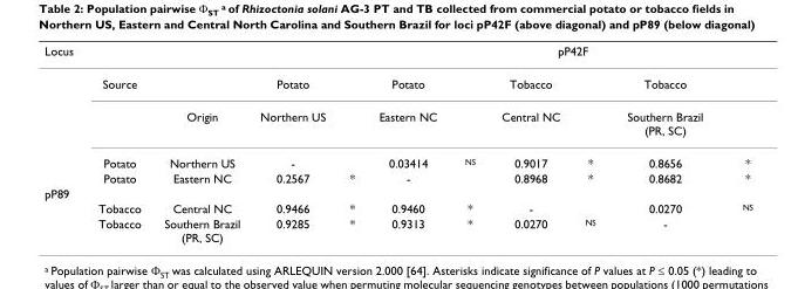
<table><thead><tr><td colspan="5">Locus</td><td colspan="6">pP42F</td></tr><tr><td></td><td>Source</td><td></td><td>Potato</td><td></td><td>Potato</td><td></td><td>Tobacco</td><td></td><td>Tobacco</td><td></td></tr></thead><tbody><tr><td></td><td></td><td>Origin</td><td>Northern US</td><td></td><td>Eastern NC</td><td></td><td>Central NC</td><td></td><td>Southern Brazil (PR, SC)</td><td></td></tr><tr><td></td><td>Potato</td><td>Northern US</td><td>-</td><td></td><td>0.03414</td><td><sup>NS</sup></td><td>0.9017</td><td>*</td><td>0.8656</td><td>*</td></tr><tr><td></td><td>Potato</td><td>Eastern NC</td><td>0.2567</td><td>*</td><td>-</td><td></td><td>0.8968</td><td>*</td><td>0.8682</td><td>*</td></tr><tr><td colspan="11">pP89</td></tr><tr><td></td><td>Tobacco</td><td>Central NC</td><td>0.9466</td><td>*</td><td>0.9460</td><td>*</td><td>-</td><td></td><td>0.0270</td><td><sup>NS</sup></td></tr><tr><td></td><td>Tobacco</td><td>Southern Brazil (PR, SC)</td><td>0.9285</td><td>*</td><td>0.9313</td><td>*</td><td>0.0270</td><td><sup>NS</sup></td><td>-</td><td></td></tr></tbody></table>